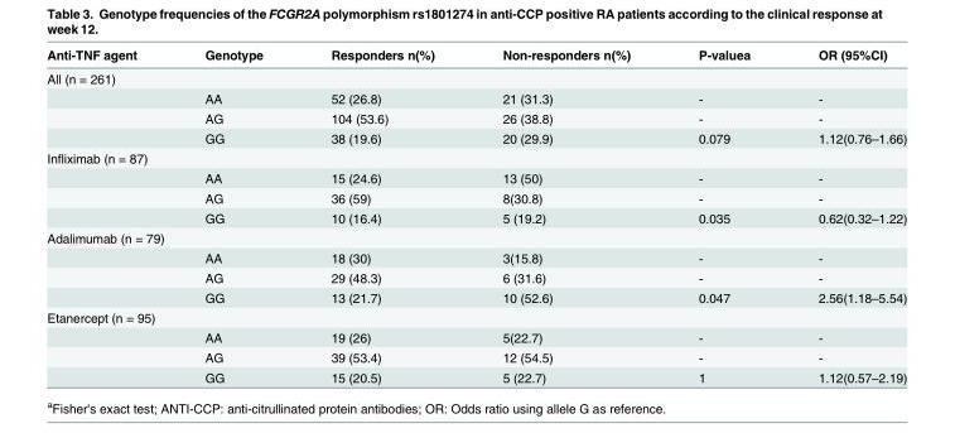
<table><thead><tr><td>Anti-TNF agent</td><td>Genotype</td><td>Responders n(%)</td><td>Non-responders n(%)</td><td>P-value<sup>a</sup></td><td>OR (95%CI)</td></tr></thead><tbody><tr><td colspan="6">All (n = 261)</td></tr><tr><td></td><td>AA</td><td>52 (26.8)</td><td>21 (31.3)</td><td>-</td><td>-</td></tr><tr><td></td><td>AG</td><td>104 (53.6)</td><td>26 (38.8)</td><td>-</td><td>-</td></tr><tr><td></td><td>GG</td><td>38 (19.6)</td><td>20 (29.9)</td><td>0.079</td><td>1.12(0.76–1.66)</td></tr><tr><td colspan="6">Infliximab (n = 87)</td></tr><tr><td></td><td>AA</td><td>15 (24.6)</td><td>13 (50)</td><td>-</td><td>-</td></tr><tr><td></td><td>AG</td><td>36 (59)</td><td>8(30.8)</td><td>-</td><td>-</td></tr><tr><td></td><td>GG</td><td>10 (16.4)</td><td>5 (19.2)</td><td>0.035</td><td>0.62(0.32–1.22)</td></tr><tr><td colspan="6">Adalimumab (n = 79)</td></tr><tr><td></td><td>AA</td><td>18 (30)</td><td>3(15.8)</td><td>-</td><td>-</td></tr><tr><td></td><td>AG</td><td>29 (48.3)</td><td>6 (31.6)</td><td>-</td><td>-</td></tr><tr><td></td><td>GG</td><td>13 (21.7)</td><td>10 (52.6)</td><td>0.047</td><td>2.56(1.18–5.54)</td></tr><tr><td colspan="6">Etanercept (n = 95)</td></tr><tr><td></td><td>AA</td><td>19 (26)</td><td>5(22.7)</td><td>-</td><td>-</td></tr><tr><td></td><td>AG</td><td>39 (53.4)</td><td>12 (54.5)</td><td>-</td><td>-</td></tr><tr><td></td><td>GG</td><td>15 (20.5)</td><td>5 (22.7)</td><td>1</td><td>1.12(0.57–2.19)</td></tr></tbody></table>